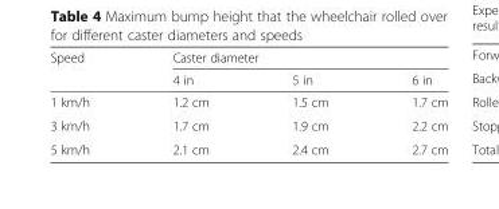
<table><thead><tr><td rowspan="2">Speed</td><td colspan="3">Caster diameter</td></tr><tr><td>4 in</td><td>5 in</td><td>6 in</td></tr></thead><tbody><tr><td>1 km/h</td><td>1.2 cm</td><td>1.5 cm</td><td>1.7 cm</td></tr><tr><td>3 km/h</td><td>1.7 cm</td><td>1.9 cm</td><td>2.2 cm</td></tr><tr><td>5 km/h</td><td>2.1 cm</td><td>2.4 cm</td><td>2.7 cm</td></tr></tbody></table>